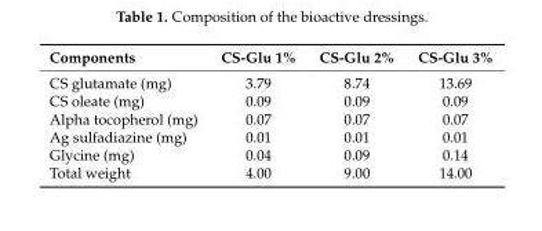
<table><thead><tr><td>Components</td><td>CS-Glu 1%</td><td>CS-Glu 2%</td><td>CS-Glu 3%</td></tr></thead><tbody><tr><td>CS glutamate (mg)</td><td>3.79</td><td>8.74</td><td>13.69</td></tr><tr><td>CS oleate (mg)</td><td>0.09</td><td>0.09</td><td>0.09</td></tr><tr><td>Alpha tocopherol (mg)</td><td>0.07</td><td>0.07</td><td>0.07</td></tr><tr><td>Ag sulfadiazine (mg)</td><td>0.01</td><td>0.01</td><td>0.01</td></tr><tr><td>Glycine (mg)</td><td>0.04</td><td>0.09</td><td>0.14</td></tr><tr><td>Total weight</td><td>4.00</td><td>9.00</td><td>14.00</td></tr></tbody></table>